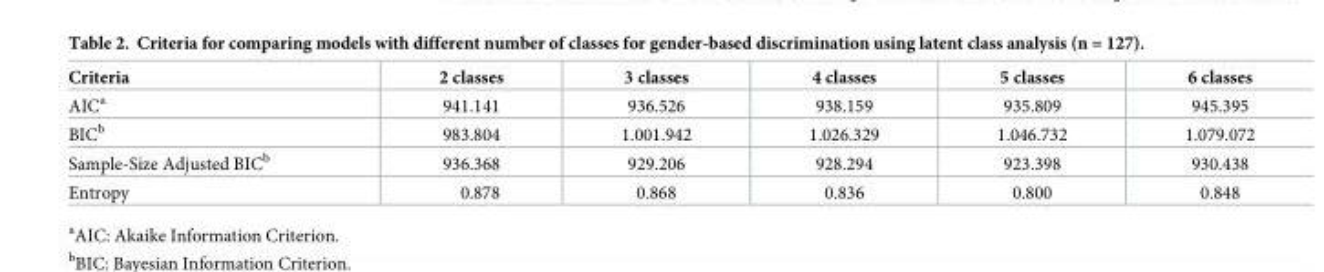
<table><thead><tr><td>Criteria</td><td>2 classes</td><td>3 classes</td><td>4 classes</td><td>5 classes</td><td>6 classes</td></tr></thead><tbody><tr><td>AIC<sup>a</sup></td><td>941.141</td><td>936.526</td><td>938.159</td><td>935.809</td><td>945.395</td></tr><tr><td>BIC<sup>b</sup></td><td>983.804</td><td>1.001.942</td><td>1.026.329</td><td>1.046.732</td><td>1.079.072</td></tr><tr><td>Sample-Size Adjusted BIC<sup>b</sup></td><td>936.368</td><td>929.206</td><td>928.294</td><td>923.398</td><td>930.438</td></tr><tr><td>Entropy</td><td>0.878</td><td>0.868</td><td>0.836</td><td>0.800</td><td>0.848</td></tr></tbody></table>